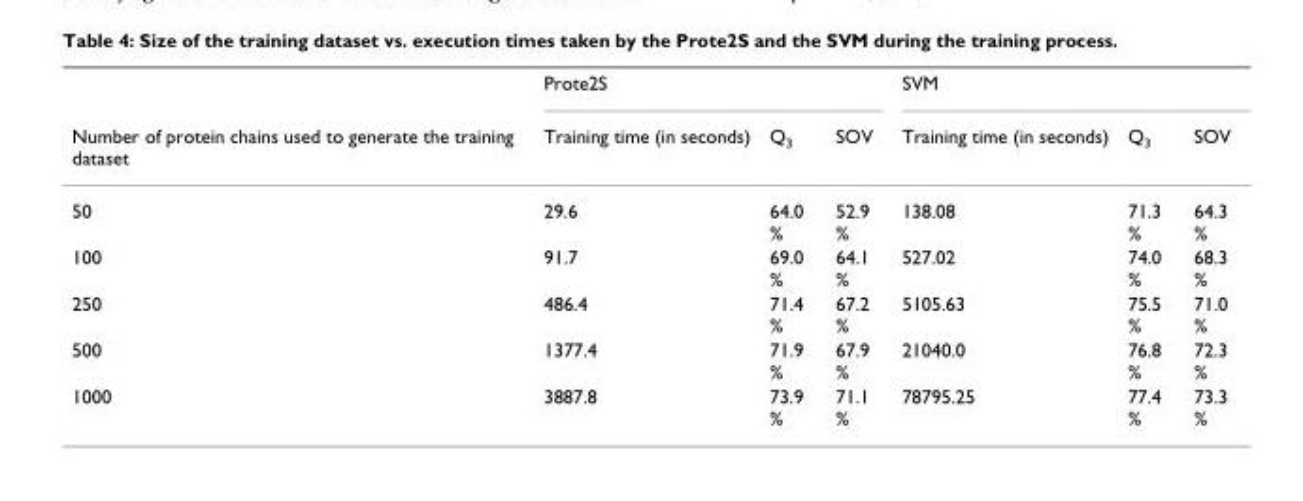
<table><thead><tr><td rowspan="2">Number of protein chains used to generate the training dataset</td><td colspan="3">Prote2S</td><td colspan="3">SVM</td></tr><tr><td>Training time (in seconds)</td><td>Q<sub>3</sub></td><td>SOV</td><td>Training time (in seconds)</td><td>Q<sub>3</sub></td><td>SOV</td></tr></thead><tbody><tr><td>50</td><td>29.6</td><td>64.0 %</td><td>52.9 %</td><td>138.08</td><td>71.3 %</td><td>64.3 %</td></tr><tr><td>100</td><td>91.7</td><td>69.0 %</td><td>64.1 %</td><td>527.02</td><td>74.0 %</td><td>68.3 %</td></tr><tr><td>250</td><td>486.4</td><td>71.4 %</td><td>67.2 %</td><td>5105.63</td><td>75.5 %</td><td>71.0 %</td></tr><tr><td>500</td><td>1377.4</td><td>71.9 %</td><td>67.9 %</td><td>21040.0</td><td>76.8 %</td><td>72.3 %</td></tr><tr><td>1000</td><td>3887.8</td><td>73.9 %</td><td>71.1 %</td><td>78795.25</td><td>77.4 %</td><td>73.3 %</td></tr></tbody></table>